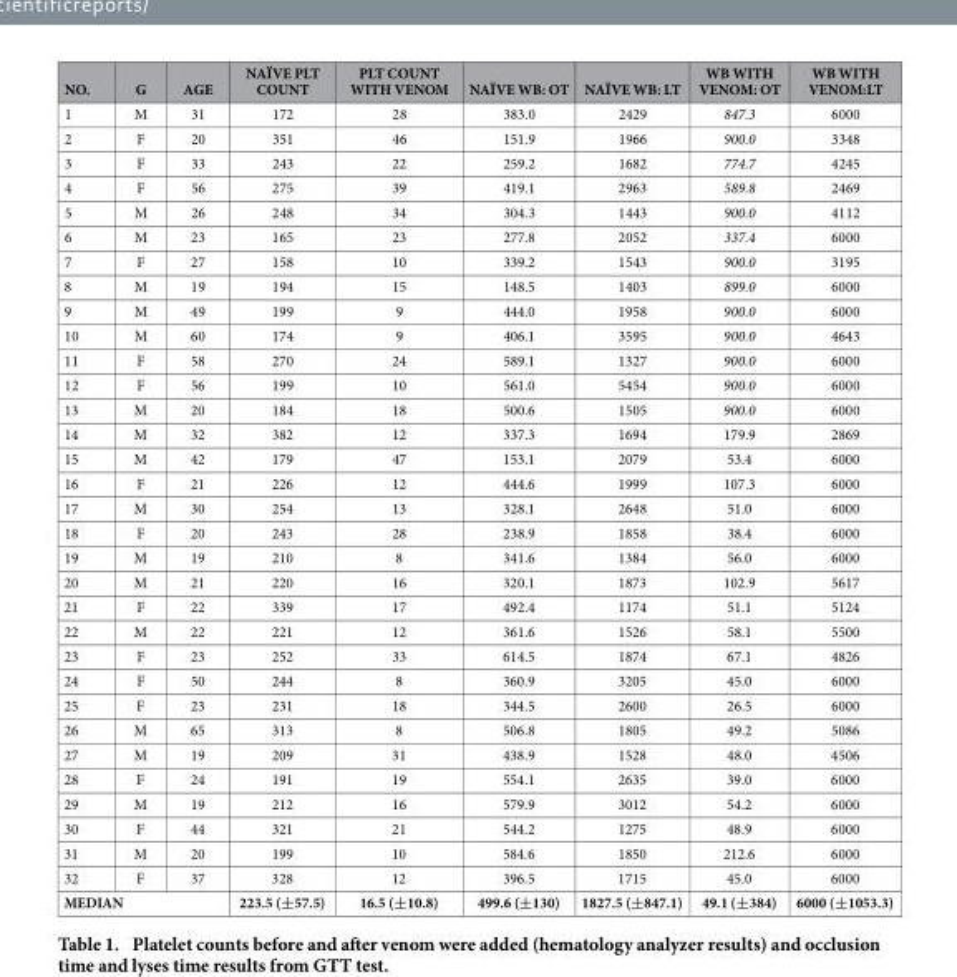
<table><thead><tr><td>NO.</td><td>G</td><td>AGE</td><td>NAÏVE PLT COUNT</td><td>PLT COUNT WITH VENOM</td><td>NAÏVE WB: OT</td><td>NAÏVE WB: LT</td><td>WB WITH VENOM: OT</td><td>WB WITH VENOM:LT</td></tr></thead><tbody><tr><td>1</td><td>M</td><td>31</td><td>172</td><td>28</td><td>383.0</td><td>2429</td><td>847.3</td><td>6000</td></tr><tr><td>2</td><td>F</td><td>20</td><td>351</td><td>46</td><td>151.9</td><td>1966</td><td>900.0</td><td>3348</td></tr><tr><td>3</td><td>F</td><td>33</td><td>243</td><td>22</td><td>259.2</td><td>1682</td><td>774.7</td><td>4245</td></tr><tr><td>4</td><td>F</td><td>56</td><td>275</td><td>39</td><td>419.1</td><td>2963</td><td>589.8</td><td>2469</td></tr><tr><td>5</td><td>M</td><td>26</td><td>248</td><td>34</td><td>304.3</td><td>1443</td><td>900.0</td><td>4112</td></tr><tr><td>6</td><td>M</td><td>23</td><td>165</td><td>23</td><td>277.8</td><td>2052</td><td>337.4</td><td>6000</td></tr><tr><td>7</td><td>F</td><td>27</td><td>158</td><td>10</td><td>339.2</td><td>1543</td><td>900.0</td><td>3195</td></tr><tr><td>8</td><td>M</td><td>19</td><td>194</td><td>15</td><td>148.5</td><td>1403</td><td>899.0</td><td>6000</td></tr><tr><td>9</td><td>M</td><td>49</td><td>199</td><td>9</td><td>444.0</td><td>1958</td><td>900.0</td><td>6000</td></tr><tr><td>10</td><td>M</td><td>60</td><td>174</td><td>9</td><td>406.1</td><td>3595</td><td>900.0</td><td>4643</td></tr><tr><td>11</td><td>F</td><td>58</td><td>270</td><td>24</td><td>589.1</td><td>1327</td><td>900.0</td><td>6000</td></tr><tr><td>12</td><td>F</td><td>56</td><td>199</td><td>10</td><td>561.0</td><td>5454</td><td>900.0</td><td>6000</td></tr><tr><td>13</td><td>M</td><td>20</td><td>184</td><td>18</td><td>500.6</td><td>1505</td><td>900.0</td><td>6000</td></tr><tr><td>14</td><td>M</td><td>32</td><td>382</td><td>12</td><td>337.3</td><td>1694</td><td>179.9</td><td>2869</td></tr><tr><td>15</td><td>M</td><td>42</td><td>179</td><td>47</td><td>153.1</td><td>2079</td><td>53.4</td><td>6000</td></tr><tr><td>16</td><td>F</td><td>21</td><td>226</td><td>12</td><td>444.6</td><td>1999</td><td>107.3</td><td>6000</td></tr><tr><td>17</td><td>M</td><td>30</td><td>254</td><td>13</td><td>328.1</td><td>2648</td><td>51.0</td><td>6000</td></tr><tr><td>18</td><td>F</td><td>20</td><td>243</td><td>28</td><td>238.9</td><td>1858</td><td>38.4</td><td>6000</td></tr><tr><td>19</td><td>M</td><td>19</td><td>210</td><td>8</td><td>341.6</td><td>1384</td><td>56.0</td><td>6000</td></tr><tr><td>20</td><td>M</td><td>21</td><td>220</td><td>16</td><td>320.1</td><td>1873</td><td>102.9</td><td>5617</td></tr><tr><td>21</td><td>F</td><td>22</td><td>339</td><td>17</td><td>492.4</td><td>1174</td><td>51.1</td><td>5124</td></tr><tr><td>22</td><td>M</td><td>22</td><td>221</td><td>12</td><td>361.6</td><td>1526</td><td>58.1</td><td>5500</td></tr><tr><td>23</td><td>F</td><td>23</td><td>252</td><td>33</td><td>614.5</td><td>1874</td><td>67.1</td><td>4826</td></tr><tr><td>24</td><td>F</td><td>50</td><td>244</td><td>8</td><td>360.9</td><td>3205</td><td>45.0</td><td>6000</td></tr><tr><td>25</td><td>F</td><td>23</td><td>231</td><td>18</td><td>344.5</td><td>2600</td><td>26.5</td><td>6000</td></tr><tr><td>26</td><td>M</td><td>65</td><td>313</td><td>8</td><td>506.8</td><td>1805</td><td>49.2</td><td>5086</td></tr><tr><td>27</td><td>M</td><td>19</td><td>209</td><td>31</td><td>438.9</td><td>1528</td><td>48.0</td><td>4506</td></tr><tr><td>28</td><td>F</td><td>24</td><td>191</td><td>19</td><td>554.1</td><td>2635</td><td>39.0</td><td>6000</td></tr><tr><td>29</td><td>M</td><td>19</td><td>212</td><td>16</td><td>579.9</td><td>3012</td><td>54.2</td><td>6000</td></tr><tr><td>30</td><td>F</td><td>44</td><td>321</td><td>21</td><td>544.2</td><td>1275</td><td>48.9</td><td>6000</td></tr><tr><td>31</td><td>M</td><td>20</td><td>199</td><td>10</td><td>584.6</td><td>1850</td><td>212.6</td><td>6000</td></tr><tr><td>32</td><td>F</td><td>37</td><td>328</td><td>12</td><td>396.5</td><td>1715</td><td>45.0</td><td>6000</td></tr><tr><td colspan="3">MEDIAN</td><td>223.5 (± 57.5)</td><td>16.5 (± 10.8)</td><td>499.6 (± 130)</td><td>1827.5 (± 847.1)</td><td>49.1 (± 384)</td><td>6000 (± 1053.3)</td></tr></tbody></table>